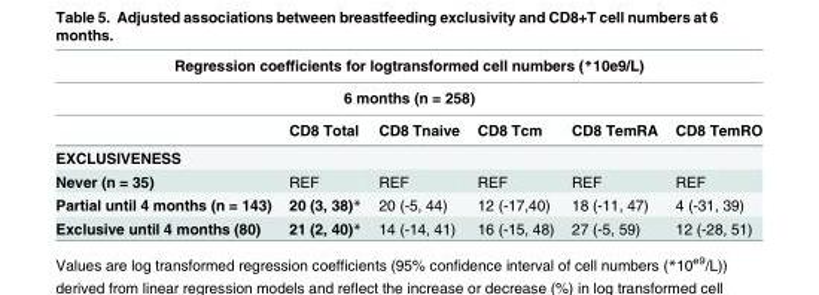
<table><thead><tr><td rowspan="2" colspan="6">Regression coefficients for logtransformed cell numbers (*10e9/L) 6 months (n = 258)</td></tr><tr></tr><tr><td></td><td>CD8 Total</td><td>CD8 Tnaive</td><td>CD8 Tcm</td><td>CD8 TemRA</td><td>CD8 TemRO</td></tr></thead><tbody><tr><td colspan="6">EXCLUSIVENESS</td></tr><tr><td>Never (n = 35)</td><td>REF</td><td>REF</td><td>REF</td><td>REF</td><td>REF</td></tr><tr><td>Partial until 4 months (n = 143)</td><td>20 (3, 38)*</td><td>20 (-5, 44)</td><td>12 (-17,40)</td><td>18 (-11, 47)</td><td>4 (-31, 39)</td></tr><tr><td>Exclusive until 4 months (80)</td><td>21 (2, 40)*</td><td>14 (-14, 41)</td><td>16 (-15, 48)</td><td>27 (-5, 59)</td><td>12 (-28, 51)</td></tr></tbody></table>